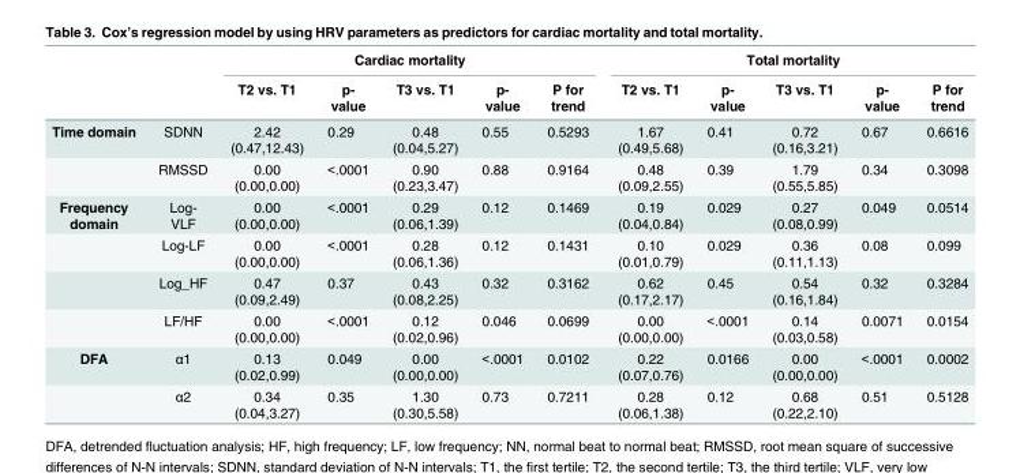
<table><thead><tr><td rowspan="2"></td><td rowspan="2"></td><td colspan="5">Cardiac mortality</td><td colspan="5">Total mortality</td></tr><tr><td>T2 vs. T1</td><td>p- value</td><td>T3 vs. T1</td><td>p- value</td><td>P for trend</td><td>T2 vs. T1</td><td>p- value</td><td>T3 vs. T1</td><td>p- value</td><td>P for trend</td></tr></thead><tbody><tr><td rowspan="2">Time domain</td><td>SDNN</td><td>2.42 (0.47,12.43)</td><td>0.29</td><td>0.48 (0.04,5.27)</td><td>0.55</td><td>0.5293</td><td>1.67 (0.49,5.68)</td><td>0.41</td><td>0.72 (0.16,3.21)</td><td>0.67</td><td>0.6616</td></tr><tr><td>RMSSD</td><td>0.00 (0.00,0.00)</td><td>&lt;.0001</td><td>0.90 (0.23,3.47)</td><td>0.88</td><td>0.9164</td><td>0.48 (0.09,2.55)</td><td>0.39</td><td>1.79 (0.55,5.85)</td><td>0.34</td><td>0.3098</td></tr><tr><td rowspan="4">Frequency domain</td><td>Log- VLF</td><td>0.00 (0.00,0.00)</td><td>&lt;.0001</td><td>0.29 (0.06,1.39)</td><td>0.12</td><td>0.1469</td><td>0.19 (0.04,0.84)</td><td>0.029</td><td>0.27 (0.08,0.99)</td><td>0.049</td><td>0.0514</td></tr><tr><td>Log-LF</td><td>0.00 (0.00,0.00)</td><td>&lt;.0001</td><td>0.28 (0.06,1.36)</td><td>0.12</td><td>0.1431</td><td>0.10 (0.01,0.79)</td><td>0.029</td><td>0.36 (0.11,1.13)</td><td>0.08</td><td>0.099</td></tr><tr><td>Log_HF</td><td>0.47 (0.09,2.49)</td><td>0.37</td><td>0.43 (0.08,2.25)</td><td>0.32</td><td>0.3162</td><td>0.62 (0.17,2.17)</td><td>0.45</td><td>0.54 (0.16,1.84)</td><td>0.32</td><td>0.3284</td></tr><tr><td>LF/HF</td><td>0.00 (0.00,0.00)</td><td>&lt;.0001</td><td>0.12 (0.02,0.96)</td><td>0.046</td><td>0.0699</td><td>0.00 (0.00,0.00)</td><td>&lt;.0001</td><td>0.14 (0.03,0.58)</td><td>0.0071</td><td>0.0154</td></tr><tr><td rowspan="2">DFA</td><td>α1</td><td>0.13 (0.02,0.99)</td><td>0.049</td><td>0.00 (0.00,0.00)</td><td>&lt;.0001</td><td>0.0102</td><td>0.22 (0.07,0.76)</td><td>0.0166</td><td>0.00 (0.00,0.00)</td><td>&lt;.0001</td><td>0.0002</td></tr><tr><td>α2</td><td>0.34 (0.04,3.27)</td><td>0.35</td><td>1.30 (0.30,5.58)</td><td>0.73</td><td>0.7211</td><td>0.28 (0.06,1.38)</td><td>0.12</td><td>0.68 (0.22,2.10)</td><td>0.51</td><td>0.5128</td></tr></tbody></table>